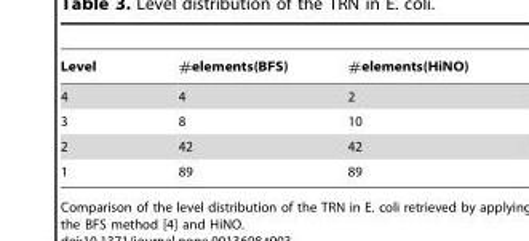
<table><thead><tr><td>Level</td><td>#elements(BFS)</td><td>#elements(HiNO)</td></tr></thead><tbody><tr><td>4</td><td>4</td><td>2</td></tr><tr><td>3</td><td>8</td><td>10</td></tr><tr><td>2</td><td>42</td><td>42</td></tr><tr><td>1</td><td>89</td><td>89</td></tr></tbody></table>